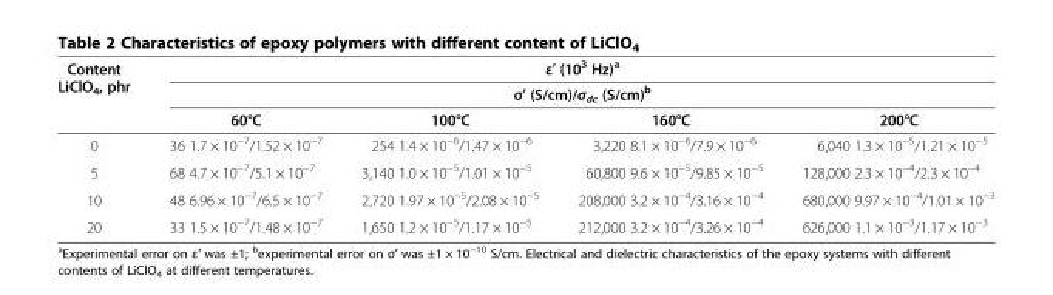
<table><thead><tr><td rowspan="3">Content LiClO<sub>4</sub>, phr</td><td rowspan="2" colspan="4">ε′ (10<sup>3</sup> Hz)<sup>a</sup> σ′ (S/cm)/σ<sub>dc</sub> (S/cm)<sup>b</sup></td></tr><tr></tr><tr><td>60°С</td><td>100°С</td><td>160°С</td><td>200°С</td></tr></thead><tbody><tr><td>0</td><td>36 1.7 × 10<sup>−7</sup>/1.52 × 10<sup>−7</sup></td><td>254 1.4 × 10<sup>−6</sup>/1.47 × 10<sup>−6</sup></td><td>3,220 8.1 × 10<sup>−6</sup>/7.9 × 10<sup>−6</sup></td><td>6,040 1.3 × 10<sup>−5</sup>/1.21 × 10<sup>−5</sup></td></tr><tr><td>5</td><td>68 4.7 × 10<sup>−7</sup>/5.1 × 10<sup>−7</sup></td><td>3,140 1.0 × 10<sup>−5</sup>/1.01 × 10<sup>−5</sup></td><td>60,800 9.6 × 10<sup>−5</sup>/9.85 × 10<sup>−5</sup></td><td>128,000 2.3 × 10<sup>−4</sup>/2.3 × 10<sup>−4</sup></td></tr><tr><td>10</td><td>48 6.96 × 10<sup>−7</sup>/6.5 × 10<sup>−7</sup></td><td>2,720 1.97 × 10<sup>−5</sup>/2.08 × 10<sup>−5</sup></td><td>208,000 3.2 × 10<sup>−4</sup>/3.16 × 10<sup>−4</sup></td><td>680,000 9.97 × 10<sup>−4</sup>/1.01 × 10<sup>−3</sup></td></tr><tr><td>20</td><td>33 1.5 × 10<sup>−7</sup>/1.48 × 10<sup>−7</sup></td><td>1,650 1.2 × 10<sup>−5</sup>/1.17 × 10<sup>−5</sup></td><td>212,000 3.2 × 10<sup>−4</sup>/3.26 × 10<sup>−4</sup></td><td>626,000 1.1 × 10<sup>−3</sup>/1.17 × 10<sup>−3</sup></td></tr></tbody></table>